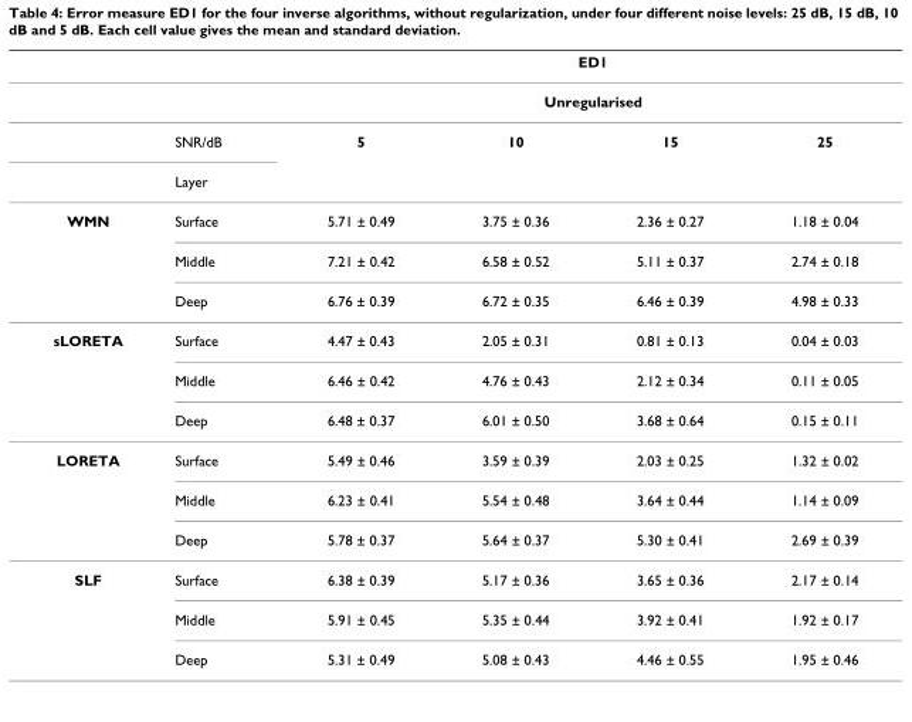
<table><thead><tr><td rowspan="3"></td><td rowspan="3">SNR/dB</td><td rowspan="2" colspan="4">ED1 Unregularised</td></tr><tr></tr><tr><td>5</td><td>10</td><td>15</td><td>25</td></tr></thead><tbody><tr><td></td><td>Layer</td><td></td><td></td><td></td><td></td></tr><tr><td rowspan="3">WMN</td><td>Surface</td><td>5.71 ± 0.49</td><td>3.75 ± 0.36</td><td>2.36 ± 0.27</td><td>1.18 ± 0.04</td></tr><tr><td>Middle</td><td>7.21 ± 0.42</td><td>6.58 ± 0.52</td><td>5.11 ± 0.37</td><td>2.74 ± 0.18</td></tr><tr><td>Deep</td><td>6.76 ± 0.39</td><td>6.72 ± 0.35</td><td>6.46 ± 0.39</td><td>4.98 ± 0.33</td></tr><tr><td rowspan="3">sLORETA</td><td>Surface</td><td>4.47 ± 0.43</td><td>2.05 ± 0.31</td><td>0.81 ± 0.13</td><td>0.04 ± 0.03</td></tr><tr><td>Middle</td><td>6.46 ± 0.42</td><td>4.76 ± 0.43</td><td>2.12 ± 0.34</td><td>0.11 ± 0.05</td></tr><tr><td>Deep</td><td>6.48 ± 0.37</td><td>6.01 ± 0.50</td><td>3.68 ± 0.64</td><td>0.15 ± 0.11</td></tr><tr><td rowspan="3">LORETA</td><td>Surface</td><td>5.49 ± 0.46</td><td>3.59 ± 0.39</td><td>2.03 ± 0.25</td><td>1.32 ± 0.02</td></tr><tr><td>Middle</td><td>6.23 ± 0.41</td><td>5.54 ± 0.48</td><td>3.64 ± 0.44</td><td>1.14 ± 0.09</td></tr><tr><td>Deep</td><td>5.78 ± 0.37</td><td>5.64 ± 0.37</td><td>5.30 ± 0.41</td><td>2.69 ± 0.39</td></tr><tr><td rowspan="3">SLF</td><td>Surface</td><td>6.38 ± 0.39</td><td>5.17 ± 0.36</td><td>3.65 ± 0.36</td><td>2.17 ± 0.14</td></tr><tr><td>Middle</td><td>5.91 ± 0.45</td><td>5.35 ± 0.44</td><td>3.92 ± 0.41</td><td>1.92 ± 0.17</td></tr><tr><td>Deep</td><td>5.31 ± 0.49</td><td>5.08 ± 0.43</td><td>4.46 ± 0.55</td><td>1.95 ± 0.46</td></tr></tbody></table>